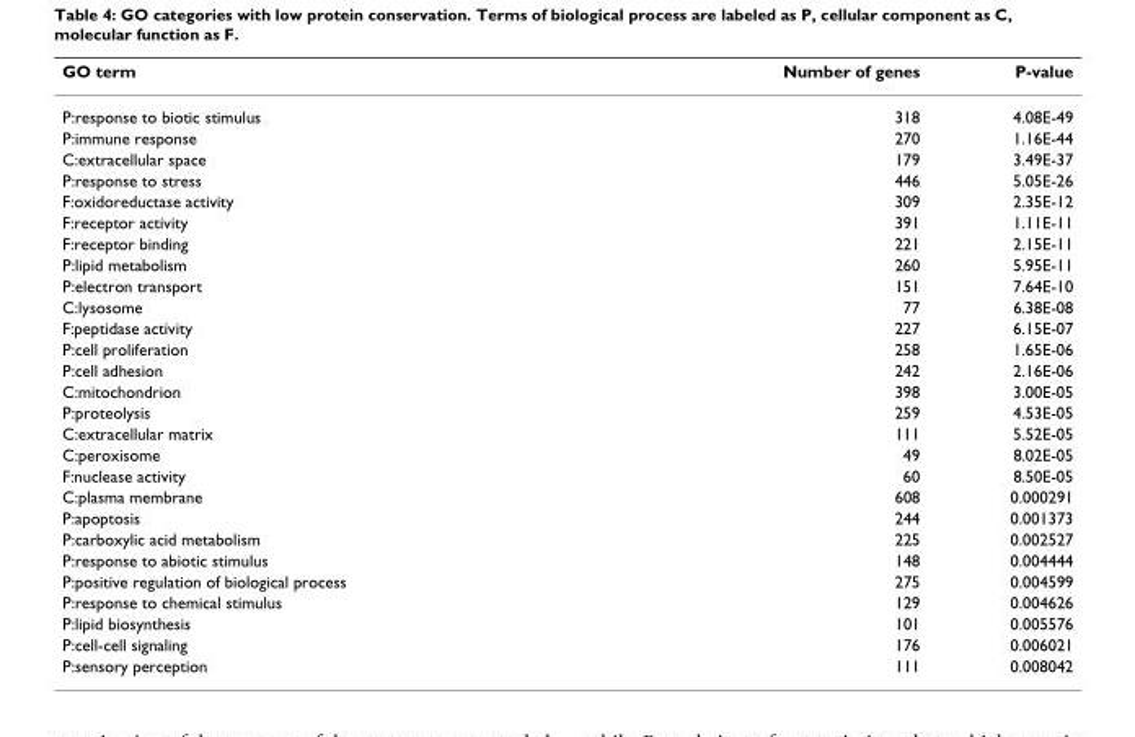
<table><thead><tr><td>GO term</td><td>Number of genes</td><td>P-value</td></tr></thead><tbody><tr><td>P:response to biotic stimulus</td><td>318</td><td>4.08E-49</td></tr><tr><td>P:immune response</td><td>270</td><td>1.16E-44</td></tr><tr><td>C:extracellular space</td><td>179</td><td>3.49E-37</td></tr><tr><td>P:response to stress</td><td>446</td><td>5.05E-26</td></tr><tr><td>F:oxidoreductase activity</td><td>309</td><td>2.35E-12</td></tr><tr><td>F:receptor activity</td><td>391</td><td>1.11E-11</td></tr><tr><td>F:receptor binding</td><td>221</td><td>2.15E-11</td></tr><tr><td>P:lipid metabolism</td><td>260</td><td>5.95E-11</td></tr><tr><td>P:electron transport</td><td>151</td><td>7.64E-10</td></tr><tr><td>C:lysosome</td><td>77</td><td>6.38E-08</td></tr><tr><td>F:peptidase activity</td><td>227</td><td>6.15E-07</td></tr><tr><td>P:cell proliferation</td><td>258</td><td>1.65E-06</td></tr><tr><td>P:cell adhesion</td><td>242</td><td>2.16E-06</td></tr><tr><td>C:mitochondrion</td><td>398</td><td>3.00E-05</td></tr><tr><td>P:proteolysis</td><td>259</td><td>4.53E-05</td></tr><tr><td>C:extracellular matrix</td><td>111</td><td>5.52E-05</td></tr><tr><td>C:peroxisome</td><td>49</td><td>8.02E-05</td></tr><tr><td>F:nuclease activity</td><td>60</td><td>8.50E-05</td></tr><tr><td>C:plasma membrane</td><td>608</td><td>0.000291</td></tr><tr><td>P:apoptosis</td><td>244</td><td>0.001373</td></tr><tr><td>P:carboxylic acid metabolism</td><td>225</td><td>0.002527</td></tr><tr><td>P:response to abiotic stimulus</td><td>148</td><td>0.004444</td></tr><tr><td>P:positive regulation of biological process</td><td>275</td><td>0.004599</td></tr><tr><td>P:response to chemical stimulus</td><td>129</td><td>0.004626</td></tr><tr><td>P:lipid biosynthesis</td><td>101</td><td>0.005576</td></tr><tr><td>P:cell-cell signaling</td><td>176</td><td>0.006021</td></tr><tr><td>P:sensory perception</td><td>111</td><td>0.008042</td></tr></tbody></table>